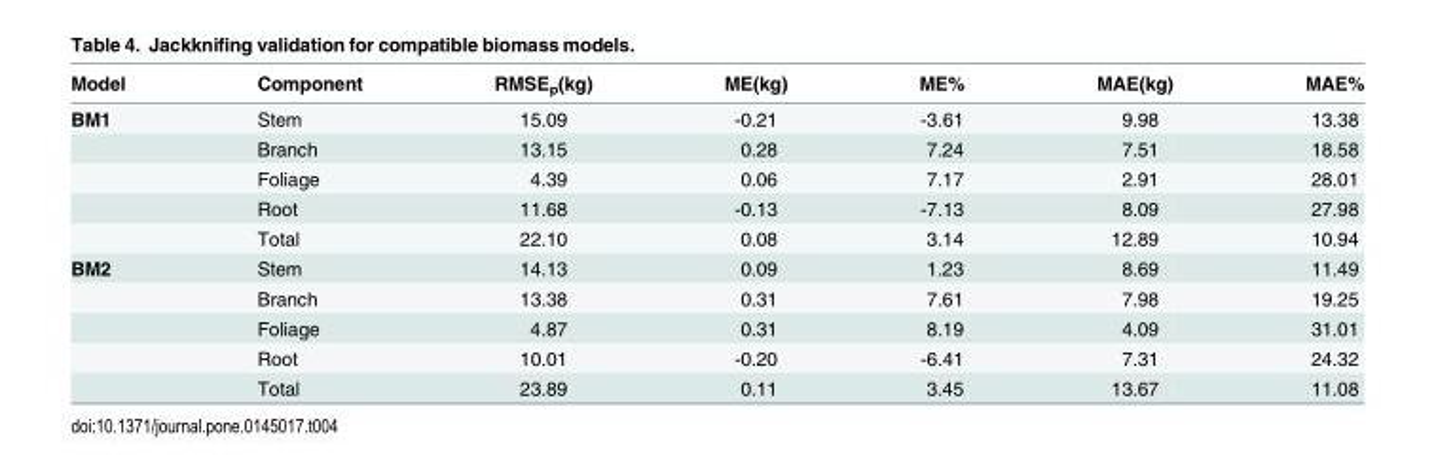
<table><thead><tr><td>Model</td><td>Component</td><td>RMSE<sub>p</sub>(kg)</td><td>ME(kg)</td><td>ME%</td><td>MAE(kg)</td><td>MAE%</td></tr></thead><tbody><tr><td rowspan="5">BM1</td><td>Stem</td><td>15.09</td><td>-0.21</td><td>-3.61</td><td>9.98</td><td>13.38</td></tr><tr><td>Branch</td><td>13.15</td><td>0.28</td><td>7.24</td><td>7.51</td><td>18.58</td></tr><tr><td>Foliage</td><td>4.39</td><td>0.06</td><td>7.17</td><td>2.91</td><td>28.01</td></tr><tr><td>Root</td><td>11.68</td><td>-0.13</td><td>-7.13</td><td>8.09</td><td>27.98</td></tr><tr><td>Total</td><td>22.10</td><td>0.08</td><td>3.14</td><td>12.89</td><td>10.94</td></tr><tr><td rowspan="5">BM2</td><td>Stem</td><td>14.13</td><td>0.09</td><td>1.23</td><td>8.69</td><td>11.49</td></tr><tr><td>Branch</td><td>13.38</td><td>0.31</td><td>7.61</td><td>7.98</td><td>19.25</td></tr><tr><td>Foliage</td><td>4.87</td><td>0.31</td><td>8.19</td><td>4.09</td><td>31.01</td></tr><tr><td>Root</td><td>10.01</td><td>-0.20</td><td>-6.41</td><td>7.31</td><td>24.32</td></tr><tr><td>Total</td><td>23.89</td><td>0.11</td><td>3.45</td><td>13.67</td><td>11.08</td></tr></tbody></table>